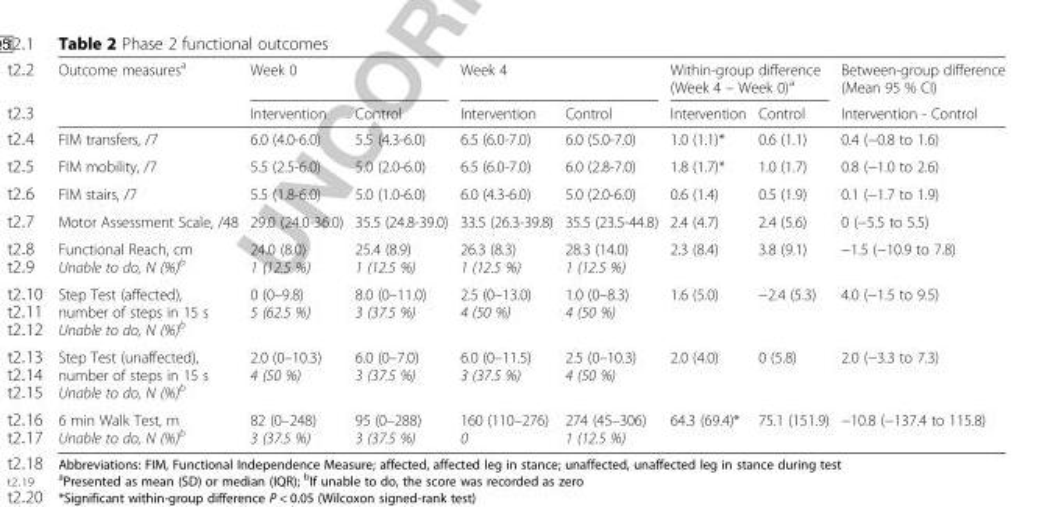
<table><thead><tr><td rowspan="2">Outcome measures<sup>a</sup></td><td colspan="2">Week 0</td><td colspan="2">Week 4</td><td colspan="2">Within-group difference (Week 4 – Week 0)<sup>a</sup></td><td rowspan="2">Between-group difference (Mean 95 % CI) Intervention - Control</td></tr><tr><td>Intervention</td><td>Control</td><td>Intervention</td><td>Control</td><td>Intervention</td><td>Control</td></tr></thead><tbody><tr><td>FIM transfers, /7</td><td>6.0 (4.0-6.0)</td><td>5.5 (4.3-6.0)</td><td>6.5 (6.0-7.0)</td><td>6.0 (5.0-7.0)</td><td>1.0 (1.1)*</td><td>0.6 (1.1)</td><td>0.4 (−0.8 to 1.6)</td></tr><tr><td>FIM mobility, /7</td><td>5.5 (2.5-6.0)</td><td>5.0 (2.0-6.0)</td><td>6.5 (6.0-7.0)</td><td>6.0 (2.8-7.0)</td><td>1.8 (1.7)*</td><td>1.0 (1.7)</td><td>0.8 (−1.0 to 2.6)</td></tr><tr><td>FIM stairs, /7</td><td>5.5 (1.8-6.0)</td><td>5.0 (1.0-6.0)</td><td>6.0 (4.3-6.0)</td><td>5.0 (2.0-6.0)</td><td>0.6 (1.4)</td><td>0.5 (1.9)</td><td>0.1 (−1.7 to 1.9)</td></tr><tr><td>Motor Assessment Scale, /48</td><td>29.0 (24.0-36.0)</td><td>35.5 (24.8-39.0)</td><td>33.5 (26.3-39.8)</td><td>35.5 (23.5-44.8)</td><td>2.4 (4.7)</td><td>2.4 (5.6)</td><td>0 (−5.5 to 5.5)</td></tr><tr><td>Functional Reach, cm Unable to do, N (%)<sup>b</sup></td><td>24.0 (8.0) 1 (12.5 %)</td><td>25.4 (8.9) 1 (12.5 %)</td><td>26.3 (8.3) 1 (12.5 %)</td><td>28.3 (14.0) 1 (12.5 %)</td><td>2.3 (8.4)</td><td>3.8 (9.1)</td><td>−1.5 (−10.9 to 7.8)</td></tr><tr><td>Step Test (affected), number of steps in 15 s Unable to do, N (%)<sup>b</sup></td><td>0 (0–9.8) 5 (62.5 %)</td><td>8.0 (0–11.0) 3 (37.5 %)</td><td>2.5 (0–13.0) 4 (50 %)</td><td>1.0 (0–8.3) 4 (50 %)</td><td>1.6 (5.0)</td><td>−2.4 (5.3)</td><td>4.0 (−1.5 to 9.5)</td></tr><tr><td>Step Test (unaffected), number of steps in 15 s Unable to do, N (%)<sup>b</sup></td><td>2.0 (0–10.3) 4 (50 %)</td><td>6.0 (0–7.0) 3 (37.5 %)</td><td>6.0 (0–11.5) 3 (37.5 %)</td><td>2.5 (0–10.3) 4 (50 %)</td><td>2.0 (4.0)</td><td>0 (5.8)</td><td>2.0 (−3.3 to 7.3)</td></tr><tr><td>6 min Walk Test, m Unable to do, N (%)<sup>b</sup></td><td>82 (0–248) 3 (37.5 %)</td><td>95 (0–288) 3 (37.5 %)</td><td>160 (110–276) 0</td><td>274 (45–306) 1 (12.5 %)</td><td>64.3 (69.4)*</td><td>75.1 (151.9)</td><td>−10.8 (−137.4 to 115.8)</td></tr></tbody></table>